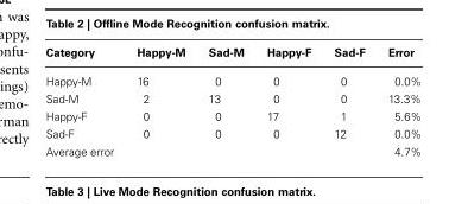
<table><thead><tr><td>Category</td><td>Happy-M</td><td>Sad-M</td><td>Happy-F</td><td>Sad-F</td><td>Error</td></tr></thead><tbody><tr><td>Happy-M</td><td>16</td><td>0</td><td>0</td><td>0</td><td>0.0%</td></tr><tr><td>Sad-M</td><td>2</td><td>13</td><td>0</td><td>0</td><td>13.3%</td></tr><tr><td>Happy-F</td><td>0</td><td>0</td><td>17</td><td>1</td><td>5.6%</td></tr><tr><td>Sad-F</td><td>0</td><td>0</td><td>0</td><td>12</td><td>0.0%</td></tr><tr><td>Average error</td><td></td><td></td><td></td><td></td><td>4.7%</td></tr></tbody></table>